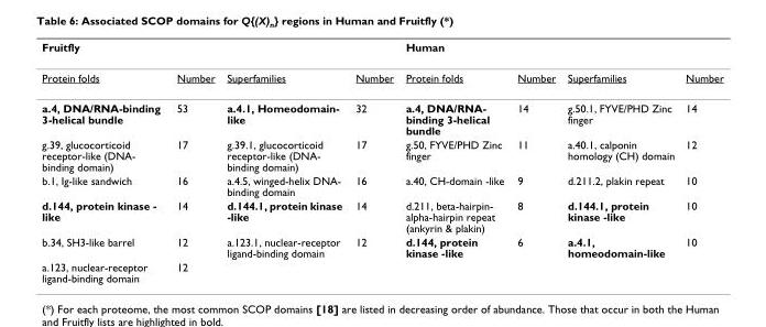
<table><thead><tr><td colspan="4">Fruitfly</td><td colspan="4">Human</td></tr><tr><td>Protein folds</td><td>Number</td><td>Superfamilies</td><td>Number</td><td>Protein folds</td><td>Number</td><td>Superfamilies</td><td>Number</td></tr></thead><tbody><tr><td>a.4, DNA/RNA-binding 3-helical bundle</td><td>53</td><td>a.4.1, Homeodomain- like</td><td>32</td><td>a.4, DNA/RNA- binding 3-helical bundle</td><td>14</td><td>g.50.1, FYVE/PHD Zinc finger</td><td>14</td></tr><tr><td>g.39, glucocorticoid receptor-like (DNA- binding domain)</td><td>17</td><td>g.39.1, glucocorticoid receptor-like (DNA- binding domain)</td><td>17</td><td>g.50, FYVE/PHD Zinc finger</td><td>11</td><td>a.40.1, calponin homology (CH) domain</td><td>12</td></tr><tr><td>b.1, Ig-like sandwich</td><td>16</td><td>a.4.5, winged-helix DNA- binding domain</td><td>16</td><td>a.40, CH-domain -like</td><td>9</td><td>d.211.2, plakin repeat</td><td>10</td></tr><tr><td>d.144, protein kinase - like</td><td>14</td><td>d.144.1, protein kinase -like</td><td>14</td><td>d.211, beta-hairpin- alpha-hairpin repeat (ankyrin &amp; plakin)</td><td>8</td><td>d.144.1, protein kinase -like</td><td>10</td></tr><tr><td>b.34, SH3-like barrel</td><td>12</td><td>a.123.1, nuclear-receptor ligand-binding domain</td><td>12</td><td>d.144, protein kinase -like</td><td>6</td><td>a.4.1, homeodomain-like</td><td>10</td></tr><tr><td>a.123, nuclear-receptor ligand-binding domain</td><td>12</td><td></td><td></td><td></td><td></td><td></td><td></td></tr></tbody></table>